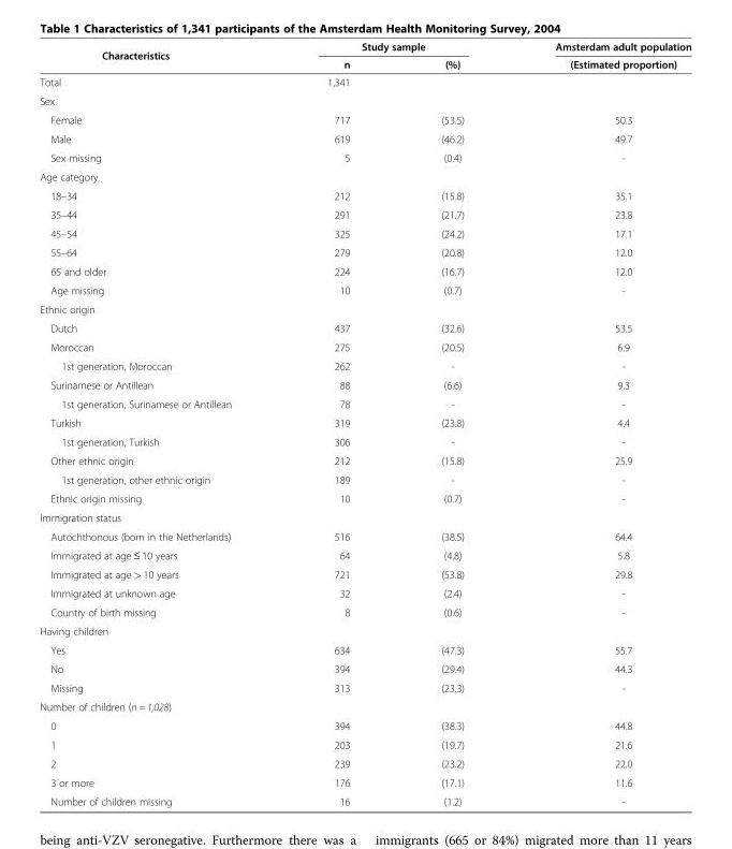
<table><thead><tr><td rowspan="2">Characteristics</td><td colspan="2">Study sample</td><td rowspan="2">Amsterdam adult population (Estimated proportion)</td></tr><tr><td>n</td><td>(%)</td></tr></thead><tbody><tr><td>Total</td><td>1,341</td><td></td><td></td></tr><tr><td colspan="4">Sex</td></tr><tr><td>Female</td><td>717</td><td>(53.5)</td><td>50.3</td></tr><tr><td>Male</td><td>619</td><td>(46.2)</td><td>49.7</td></tr><tr><td>Sex missing</td><td>5</td><td>(0.4)</td><td>-</td></tr><tr><td colspan="4">Age category</td></tr><tr><td>18–34</td><td>212</td><td>(15.8)</td><td>35.1</td></tr><tr><td>35–44</td><td>291</td><td>(21.7)</td><td>23.8</td></tr><tr><td>45–54</td><td>325</td><td>(24.2)</td><td>17.1</td></tr><tr><td>55–64</td><td>279</td><td>(20.8)</td><td>12.0</td></tr><tr><td>65 and older</td><td>224</td><td>(16.7)</td><td>12.0</td></tr><tr><td>Age missing</td><td>10</td><td>(0.7)</td><td>-</td></tr><tr><td colspan="4">Ethnic origin</td></tr><tr><td>Dutch</td><td>437</td><td>(32.6)</td><td>53.5</td></tr><tr><td>Moroccan</td><td>275</td><td>(20.5)</td><td>6.9</td></tr><tr><td>1st generation, Moroccan</td><td>262</td><td>-</td><td>-</td></tr><tr><td>Surinamese or Antillean</td><td>88</td><td>(6.6)</td><td>9.3</td></tr><tr><td>1st generation, Surinamese or Antillean</td><td>78</td><td>-</td><td>-</td></tr><tr><td>Turkish</td><td>319</td><td>(23.8)</td><td>4.4</td></tr><tr><td>1st generation, Turkish</td><td>306</td><td>-</td><td>-</td></tr><tr><td>Other ethnic origin</td><td>212</td><td>(15.8)</td><td>25.9</td></tr><tr><td>1st generation, other ethnic origin</td><td>189</td><td>-</td><td>-</td></tr><tr><td>Ethnic origin missing</td><td>10</td><td>(0.7)</td><td>-</td></tr><tr><td colspan="4">Immigration status</td></tr><tr><td>Autochthonous (born in the Netherlands)</td><td>516</td><td>(38.5)</td><td>64.4</td></tr><tr><td>Immigrated at age ≤ 10 years</td><td>64</td><td>(4.8)</td><td>5.8</td></tr><tr><td>Immigrated at age &gt; 10 years</td><td>721</td><td>(53.8)</td><td>29.8</td></tr><tr><td>Immigrated at unknown age</td><td>32</td><td>(2.4)</td><td>-</td></tr><tr><td>Country of birth missing</td><td>8</td><td>(0.6)</td><td>-</td></tr><tr><td colspan="4">Having children</td></tr><tr><td>Yes</td><td>634</td><td>(47.3)</td><td>55.7</td></tr><tr><td>No</td><td>394</td><td>(29.4)</td><td>44.3</td></tr><tr><td>Missing</td><td>313</td><td>(23.3)</td><td>-</td></tr><tr><td colspan="4">Number of children (n = 1,028)</td></tr><tr><td>0</td><td>394</td><td>(38.3)</td><td>44.8</td></tr><tr><td>1</td><td>203</td><td>(19.7)</td><td>21.6</td></tr><tr><td>2</td><td>239</td><td>(23.2)</td><td>22.0</td></tr><tr><td>3 or more</td><td>176</td><td>(17.1)</td><td>11.6</td></tr><tr><td>Number of children missing</td><td>16</td><td>(1.2)</td><td>-</td></tr></tbody></table>